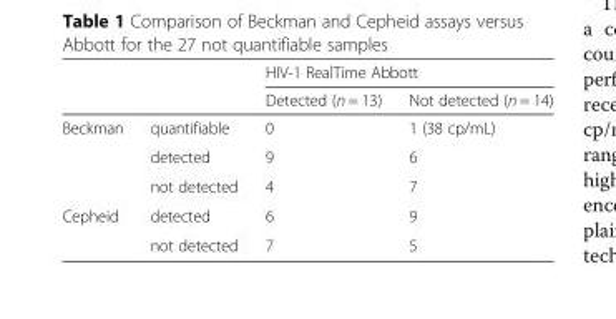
<table><thead><tr><td rowspan="2"></td><td rowspan="2"></td><td colspan="2">HIV-1 RealTime Abbott</td></tr><tr><td>Detected (n = 13)</td><td>Not detected (n = 14)</td></tr></thead><tbody><tr><td rowspan="3">Beckman</td><td>quantifiable</td><td>0</td><td>1 (38 cp/mL)</td></tr><tr><td>detected</td><td>9</td><td>6</td></tr><tr><td>not detected</td><td>4</td><td>7</td></tr><tr><td rowspan="2">Cepheid</td><td>detected</td><td>6</td><td>9</td></tr><tr><td>not detected</td><td>7</td><td>5</td></tr></tbody></table>